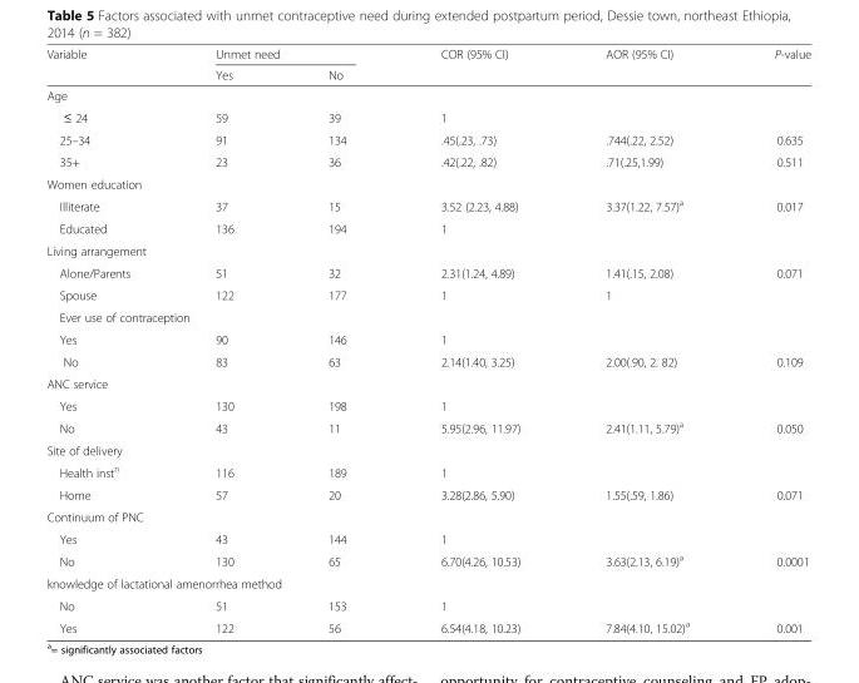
<table><thead><tr><td rowspan="2">Variable</td><td colspan="2">Unmet need</td><td rowspan="2">COR (95% CI)</td><td rowspan="2">AOR (95% CI)</td><td rowspan="2">P-value</td></tr><tr><td>Yes</td><td>No</td></tr></thead><tbody><tr><td colspan="6">Age</td></tr><tr><td>≤ 24</td><td>59</td><td>39</td><td>1</td><td></td><td></td></tr><tr><td>25–34</td><td>91</td><td>134</td><td>.45(.23, .73)</td><td>.744(.22, 2.52)</td><td>0.635</td></tr><tr><td>35+</td><td>23</td><td>36</td><td>.42(.22, .82)</td><td>.71(.25,1.99)</td><td>0.511</td></tr><tr><td colspan="6">Women education</td></tr><tr><td>Illiterate</td><td>37</td><td>15</td><td>3.52 (2.23, 4.88)</td><td>3.37(1.22, 7.57)<sup>a</sup></td><td>0.017</td></tr><tr><td>Educated</td><td>136</td><td>194</td><td>1</td><td></td><td></td></tr><tr><td colspan="6">Living arrangement</td></tr><tr><td>Alone/Parents</td><td>51</td><td>32</td><td>2.31(1.24, 4.89)</td><td>1.41(.15, 2.08)</td><td>0.071</td></tr><tr><td>Spouse</td><td>122</td><td>177</td><td>1</td><td>1</td><td></td></tr><tr><td colspan="6">Ever use of contraception</td></tr><tr><td>Yes</td><td>90</td><td>146</td><td>1</td><td></td><td></td></tr><tr><td>No</td><td>83</td><td>63</td><td>2.14(1.40, 3.25)</td><td>2.00(.90, 2. 82)</td><td>0.109</td></tr><tr><td colspan="6">ANC service</td></tr><tr><td>Yes</td><td>130</td><td>198</td><td>1</td><td></td><td></td></tr><tr><td>No</td><td>43</td><td>11</td><td>5.95(2.96, 11.97)</td><td>2.41(1.11, 5.79)<sup>a</sup></td><td>0.050</td></tr><tr><td colspan="6">Site of delivery</td></tr><tr><td>Health inst<sup>n</sup></td><td>116</td><td>189</td><td>1</td><td></td><td></td></tr><tr><td>Home</td><td>57</td><td>20</td><td>3.28(2.86, 5.90)</td><td>1.55(.59, 1.86)</td><td>0.071</td></tr><tr><td colspan="6">Continuum of PNC</td></tr><tr><td>Yes</td><td>43</td><td>144</td><td>1</td><td></td><td></td></tr><tr><td>No</td><td>130</td><td>65</td><td>6.70(4.26, 10.53)</td><td>3.63(2.13, 6.19)<sup>a</sup></td><td>0.0001</td></tr><tr><td colspan="6">knowledge of lactational amenorrhea method</td></tr><tr><td>No</td><td>51</td><td>153</td><td>1</td><td></td><td></td></tr><tr><td>Yes</td><td>122</td><td>56</td><td>6.54(4.18, 10.23)</td><td>7.84(4.10, 15.02)<sup>a</sup></td><td>0.001</td></tr></tbody></table>